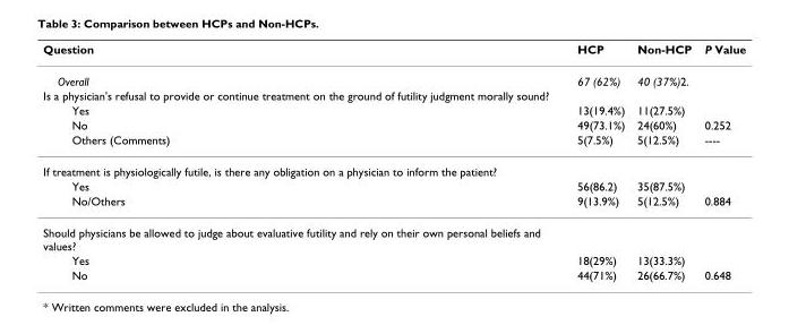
<table><thead><tr><td>Question</td><td>HCP</td><td>Non-HCP</td><td>P Value</td></tr></thead><tbody><tr><td>Overall</td><td>67 (62%)</td><td>40 (37%)2.</td><td></td></tr><tr><td colspan="4">Is a physician&#x27;s refusal to provide or continue treatment on the ground of futility judgment morally sound?</td></tr><tr><td>Yes</td><td>13(19.4%)</td><td>11(27.5%)</td><td></td></tr><tr><td>No</td><td>49(73.1%)</td><td>24(60%)</td><td>0.252</td></tr><tr><td>Others (Comments)</td><td>5(7.5%)</td><td>5(12.5%)</td><td>----</td></tr><tr><td colspan="4">If treatment is physiologically futile, is there any obligation on a physician to inform the patient?</td></tr><tr><td>Yes</td><td>56(86.2)</td><td>35(87.5%)</td><td></td></tr><tr><td>No/Others</td><td>9(13.9%)</td><td>5(12.5%)</td><td>0.884</td></tr><tr><td colspan="4">Should physicians be allowed to judge about evaluative futility and rely on their own personal beliefs and values?</td></tr><tr><td>Yes</td><td>18(29%)</td><td>13(33.3%)</td><td></td></tr><tr><td>No</td><td>44(71%)</td><td>26(66.7%)</td><td>0.648</td></tr></tbody></table>